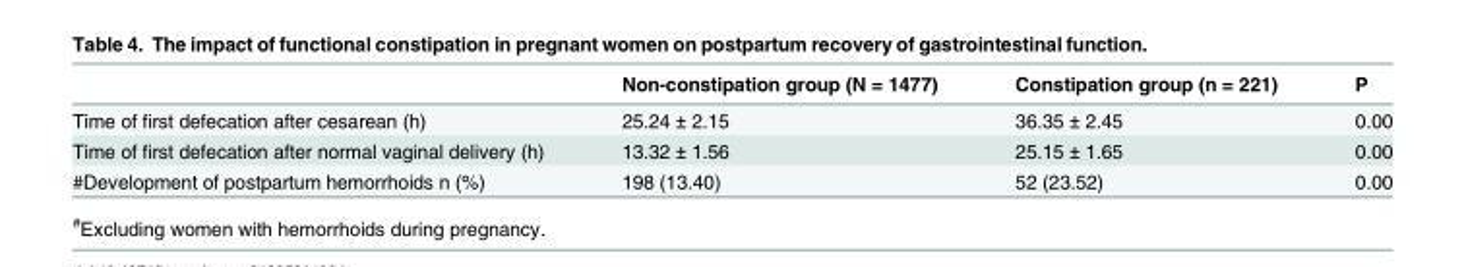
<table><thead><tr><td></td><td>Non-constipation group (N = 1477)</td><td>Constipation group (n = 221)</td><td>P</td></tr></thead><tbody><tr><td>Time of first defecation after cesarean (h)</td><td>25.24 ± 2.15</td><td>36.35 ± 2.45</td><td>0.00</td></tr><tr><td>Time of first defecation after normal vaginal delivery (h)</td><td>13.32 ± 1.56</td><td>25.15 ± 1.65</td><td>0.00</td></tr><tr><td>#Development of postpartum hemorrhoids n (%)</td><td>198 (13.40)</td><td>52 (23.52)</td><td>0.00</td></tr></tbody></table>